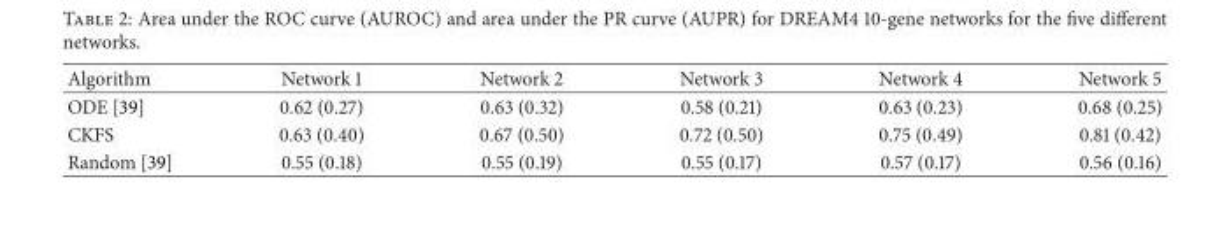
<table><thead><tr><td>Algorithm</td><td>Network 1</td><td>Network 2</td><td>Network 3</td><td>Network 4</td><td>Network 5</td></tr></thead><tbody><tr><td>ODE [39]</td><td>0.62 (0.27)</td><td>0.63 (0.32)</td><td>0.58 (0.21)</td><td>0.63 (0.23)</td><td>0.68 (0.25)</td></tr><tr><td>CKFS</td><td>0.63 (0.40)</td><td>0.67 (0.50)</td><td>0.72 (0.50)</td><td>0.75 (0.49)</td><td>0.81 (0.42)</td></tr><tr><td>Random [39]</td><td>0.55 (0.18)</td><td>0.55 (0.19)</td><td>0.55 (0.17)</td><td>0.57 (0.17)</td><td>0.56 (0.16)</td></tr></tbody></table>